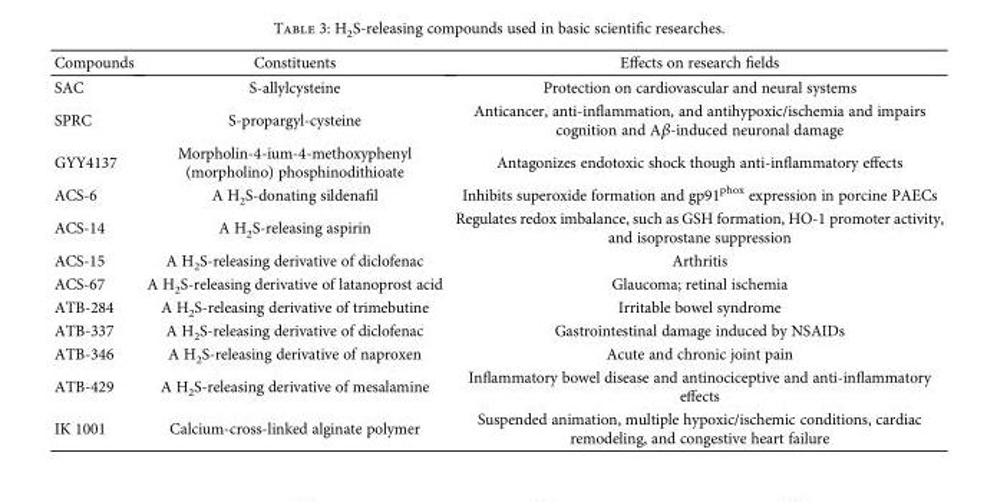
<table><thead><tr><td>Compounds</td><td>Constituents</td><td>Effects on research fields</td></tr></thead><tbody><tr><td>SAC</td><td>S-allylcysteine</td><td>Protection on cardiovascular and neural systems</td></tr><tr><td>SPRC</td><td>S-propargyl-cysteine</td><td>Anticancer, anti-inflammation, and antihypoxic/ischemia and impairs cognition and Aβ-induced neuronal damage</td></tr><tr><td>GYY4137</td><td>Morpholin-4-ium-4-methoxyphenyl (morpholino) phosphinodithioate</td><td>Antagonizes endotoxic shock though anti-inflammatory effects</td></tr><tr><td>ACS-6</td><td>A H<sub>2</sub>S-donating sildenafil</td><td>Inhibits superoxide formation and gp91<sup>phox</sup> expression in porcine PAECs</td></tr><tr><td>ACS-14</td><td>A H<sub>2</sub>S-releasing aspirin</td><td>Regulates redox imbalance, such as GSH formation, HO-1 promoter activity, and isoprostane suppression</td></tr><tr><td>ACS-15</td><td>A H<sub>2</sub>S-releasing derivative of diclofenac</td><td>Arthritis</td></tr><tr><td>ACS-67</td><td>A H<sub>2</sub>S-releasing derivative of latanoprost acid</td><td>Glaucoma; retinal ischemia</td></tr><tr><td>ATB-284</td><td>A H<sub>2</sub>S-releasing derivative of trimebutine</td><td>Irritable bowel syndrome</td></tr><tr><td>ATB-337</td><td>A H<sub>2</sub>S-releasing derivative of diclofenac</td><td>Gastrointestinal damage induced by NSAIDs</td></tr><tr><td>ATB-346</td><td>A H<sub>2</sub>S-releasing derivative of naproxen</td><td>Acute and chronic joint pain</td></tr><tr><td>ATB-429</td><td>A H<sub>2</sub>S-releasing derivative of mesalamine</td><td>Inflammatory bowel disease and antinociceptive and anti-inflammatory effects</td></tr><tr><td>IK 1001</td><td>Calcium-cross-linked alginate polymer</td><td>Suspended animation, multiple hypoxic/ischemic conditions, cardiac remodeling, and congestive heart failure</td></tr></tbody></table>